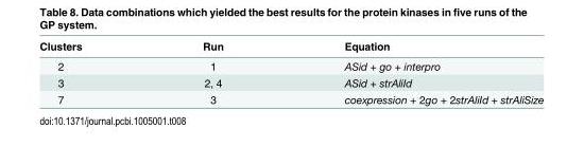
<table><thead><tr><td>Clusters</td><td>Run</td><td>Equation</td></tr></thead><tbody><tr><td>2</td><td>1</td><td>ASid + go + interpro</td></tr><tr><td>3</td><td>2, 4</td><td>ASid + strAliId</td></tr><tr><td>7</td><td>3</td><td>coexpression + 2go + 2strAliId + strAliSize</td></tr></tbody></table>